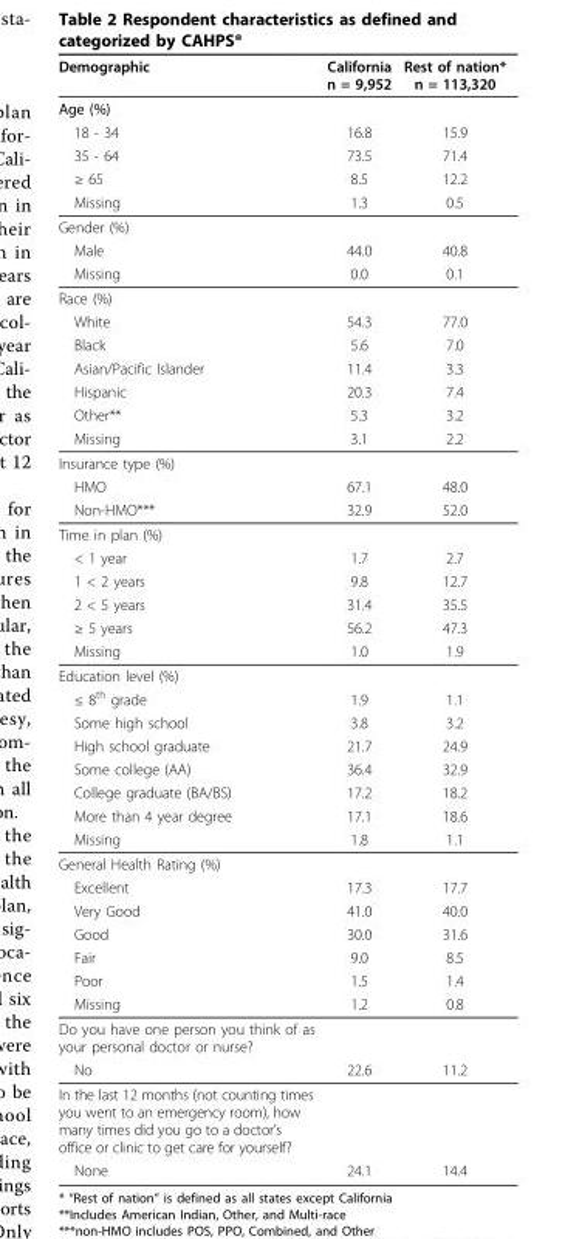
<table><thead><tr><td>Demographic</td><td>California n = 9,952</td><td>Rest of nation* n = 113,320</td></tr></thead><tbody><tr><td colspan="3">Age (%)</td></tr><tr><td>18 - 34</td><td>16.8</td><td>15.9</td></tr><tr><td>35 - 64</td><td>73.5</td><td>71.4</td></tr><tr><td>≥ 65</td><td>8.5</td><td>12.2</td></tr><tr><td>Missing</td><td>1.3</td><td>0.5</td></tr><tr><td colspan="3">Gender (%)</td></tr><tr><td>Male</td><td>44.0</td><td>40.8</td></tr><tr><td>Missing</td><td>0.0</td><td>0.1</td></tr><tr><td colspan="3">Race (%)</td></tr><tr><td>White</td><td>54.3</td><td>77.0</td></tr><tr><td>Black</td><td>5.6</td><td>7.0</td></tr><tr><td>Asian/Pacific Islander</td><td>11.4</td><td>3.3</td></tr><tr><td>Hispanic</td><td>20.3</td><td>7.4</td></tr><tr><td>Other**</td><td>5.3</td><td>3.2</td></tr><tr><td>Missing</td><td>3.1</td><td>2.2</td></tr><tr><td colspan="3">Insurance type (%)</td></tr><tr><td>HMO</td><td>67.1</td><td>48.0</td></tr><tr><td>Non-HMO***</td><td>32.9</td><td>52.0</td></tr><tr><td colspan="3">Time in plan (%)</td></tr><tr><td>&lt; 1 year</td><td>1.7</td><td>2.7</td></tr><tr><td>1 &lt; 2 years</td><td>9.8</td><td>12.7</td></tr><tr><td>2 &lt; 5 years</td><td>31.4</td><td>35.5</td></tr><tr><td>≥ 5 years</td><td>56.2</td><td>47.3</td></tr><tr><td>Missing</td><td>1.0</td><td>1.9</td></tr><tr><td colspan="3">Education level (%)</td></tr><tr><td>≤ 8<sup>th</sup> grade</td><td>1.9</td><td>1.1</td></tr><tr><td>Some high school</td><td>3.8</td><td>3.2</td></tr><tr><td>High school graduate</td><td>21.7</td><td>24.9</td></tr><tr><td>Some college (AA)</td><td>36.4</td><td>32.9</td></tr><tr><td>College graduate (BA/BS)</td><td>17.2</td><td>18.2</td></tr><tr><td>More than 4 year degree</td><td>17.1</td><td>18.6</td></tr><tr><td>Missing</td><td>1.8</td><td>1.1</td></tr><tr><td colspan="3">General Health Rating (%)</td></tr><tr><td>Excellent</td><td>17.3</td><td>17.7</td></tr><tr><td>Very Good</td><td>41.0</td><td>40.0</td></tr><tr><td>Good</td><td>30.0</td><td>31.6</td></tr><tr><td>Fair</td><td>9.0</td><td>8.5</td></tr><tr><td>Poor</td><td>1.5</td><td>1.4</td></tr><tr><td>Missing</td><td>1.2</td><td>0.8</td></tr><tr><td colspan="3">Do you have one person you think of as your personal doctor or nurse?</td></tr><tr><td>No</td><td>22.6</td><td>11.2</td></tr><tr><td colspan="3">In the last 12 months (not counting times you went to an emergency room), how many times did you go to a doctor’s office or clinic to get care for yourself?</td></tr><tr><td>None</td><td>24.1</td><td>14.4</td></tr></tbody></table>